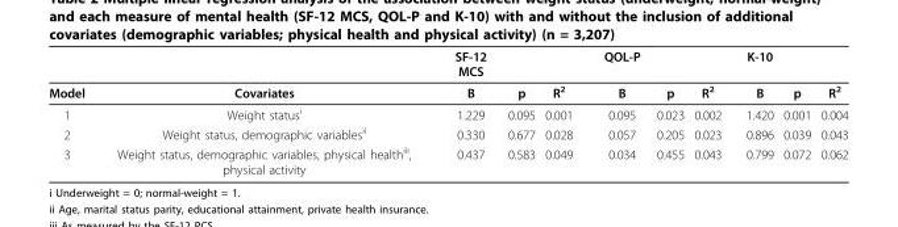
<table><thead><tr><td></td><td></td><td>SF-12 MCS</td><td></td><td></td><td>QOL-P</td><td></td><td></td><td>K-10</td><td></td><td></td></tr></thead><tbody><tr><td>Model</td><td>Covariates</td><td>B</td><td>p</td><td>R<sup>2</sup></td><td>B</td><td>p</td><td>R<sup>2</sup></td><td>B</td><td>p</td><td>R<sup>2</sup></td></tr><tr><td>1</td><td>Weight status<sup>i</sup></td><td>1.229</td><td>0.095</td><td>0.001</td><td>0.095</td><td>0.023</td><td>0.002</td><td>1.420</td><td>0.001</td><td>0.004</td></tr><tr><td>2</td><td>Weight status, demographic variables<sup>ii</sup></td><td>0.330</td><td>0.677</td><td>0.028</td><td>0.057</td><td>0.205</td><td>0.023</td><td>0.896</td><td>0.039</td><td>0.043</td></tr><tr><td>3</td><td>Weight status, demographic variables, physical health<sup>iii</sup>, physical activity</td><td>0.437</td><td>0.583</td><td>0.049</td><td>0.034</td><td>0.455</td><td>0.043</td><td>0.799</td><td>0.072</td><td>0.062</td></tr></tbody></table>